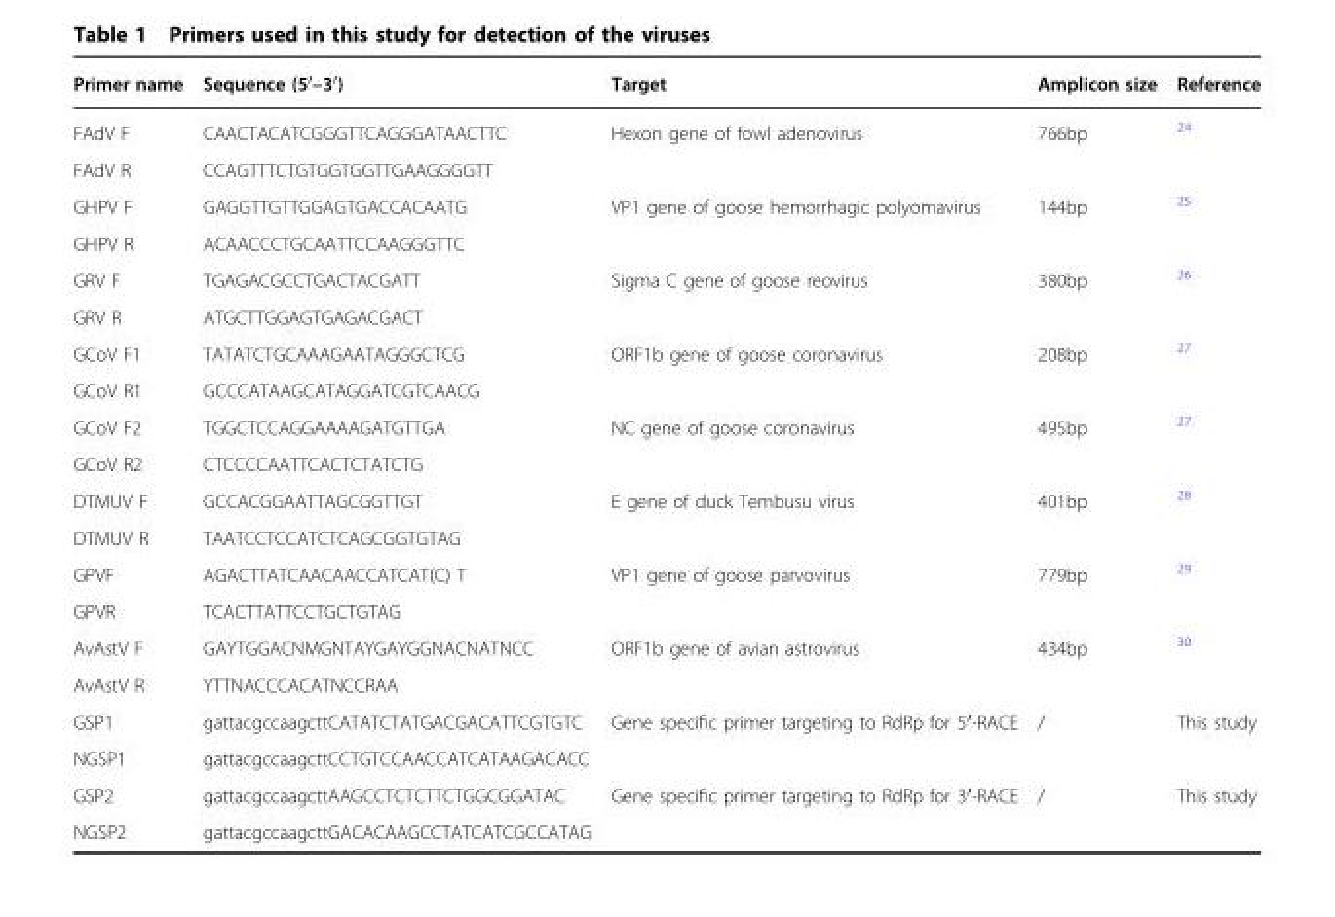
<table><thead><tr><td>Primer name</td><td>Sequence (5′–3′)</td><td>Target</td><td>Amplicon size</td><td>Reference</td></tr></thead><tbody><tr><td>FAdV F</td><td>CAACTACATCGGGTTCAGGGATAACTTC</td><td rowspan="2">Hexon gene of fowl adenovirus</td><td rowspan="2">766bp</td><td rowspan="2"><sup>24</sup></td></tr><tr><td>FAdV R</td><td>CCAGTTTCTGTGGTGGTTGAAGGGGTT</td></tr><tr><td>GHPV F</td><td>GAGGTTGTTGGAGTGACCACAATG</td><td rowspan="2">VP1 gene of goose hemorrhagic polyomavirus</td><td rowspan="2">144bp</td><td rowspan="2"><sup>25</sup></td></tr><tr><td>GHPV R</td><td>ACAACCCTGCAATTCCAAGGGTTC</td></tr><tr><td>GRV F</td><td>TGAGACGCCTGACTACGATT</td><td rowspan="2">Sigma C gene of goose reovirus</td><td rowspan="2">380bp</td><td rowspan="2"><sup>26</sup></td></tr><tr><td>GRV R</td><td>ATGCTTGGAGTGAGACGACT</td></tr><tr><td>GCoV F1</td><td>TATATCTGCAAAGAATAGGGCTCG</td><td rowspan="2">ORF1b gene of goose coronavirus</td><td rowspan="2">208bp</td><td rowspan="2"><sup>27</sup></td></tr><tr><td>GCoV R1</td><td>GCCCATAAGCATAGGATCGTCAACG</td></tr><tr><td>GCoV F2</td><td>TGGCTCCAGGAAAAGATGTTGA</td><td rowspan="2">NC gene of goose coronavirus</td><td rowspan="2">495bp</td><td rowspan="2"><sup>27</sup></td></tr><tr><td>GCoV R2</td><td>CTCCCCAATTCACTCTATCTG</td></tr><tr><td>DTMUV F</td><td>GCCACGGAATTAGCGGTTGT</td><td rowspan="2">E gene of duck Tembusu virus</td><td rowspan="2">401bp</td><td rowspan="2"><sup>28</sup></td></tr><tr><td>DTMUV R</td><td>TAATCCTCCATCTCAGCGGTGTAG</td></tr><tr><td>GPVF</td><td>AGACTTATCAACAACCATCAT(C) T</td><td rowspan="2">VP1 gene of goose parvovirus</td><td rowspan="2">779bp</td><td rowspan="2"><sup>29</sup></td></tr><tr><td>GPVR</td><td>TCACTTATTCCTGCTGTAG</td></tr><tr><td>AvAstV F</td><td>GAYTGGACNMGNTAYGAYGGNACNATNCC</td><td rowspan="2">ORF1b gene of avian astrovirus</td><td rowspan="2">434bp</td><td rowspan="2"><sup>30</sup></td></tr><tr><td>AvAstV R</td><td>YTTNACCCACATNCCRAA</td></tr><tr><td>GSP1</td><td>gattacgccaagcttCATATCTATGACGACATTCGTGTC</td><td rowspan="2">Gene specific primer targeting to RdRp for 5′-RACE</td><td rowspan="2">/</td><td rowspan="2">This study</td></tr><tr><td>NGSP1</td><td>gattacgccaagcttCCTGTCCAACCATCATAAGACACC</td></tr><tr><td>GSP2</td><td>gattacgccaagcttAAGCCTCTCTTCTGGCGGATAC</td><td rowspan="2">Gene specific primer targeting to RdRp for 3′-RACE</td><td rowspan="2">/</td><td rowspan="2">This study</td></tr><tr><td>NGSP2</td><td>gattacgccaagcttGACACAAGCCTATCATCGCCATAG</td></tr></tbody></table>